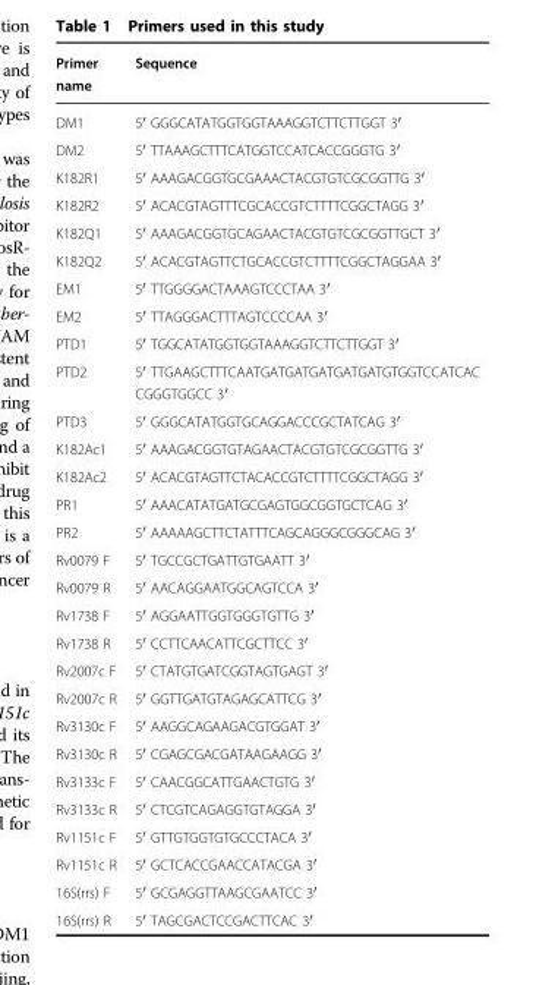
<table><thead><tr><td>Primer name</td><td>Sequence</td></tr></thead><tbody><tr><td>DM1</td><td>5′ GGGCATATGGTGGTAAAGGTCTTCTTGGT 3′</td></tr><tr><td>DM2</td><td>5′ TTAAAGCTTTCATGGTCCATCACCGGGTG 3′</td></tr><tr><td>K182R1</td><td>5′ AAAGACGGTGCGAAACTACGTGTCGCGGTTG 3′</td></tr><tr><td>K182R2</td><td>5′ ACACGTAGTTTCGCACCGTCTTTTCGGCTAGG 3′</td></tr><tr><td>K182Q1</td><td>5′ AAAGACGGTGCAGAACTACGTGTCGCGGTTGCT 3′</td></tr><tr><td>K182Q2</td><td>5′ ACACGTAGTTCTGCACCGTCTTTTCGGCTAGGAA 3′</td></tr><tr><td>EM1</td><td>5′ TTGGGGACTAAAGTCCCTAA 3′</td></tr><tr><td>EM2</td><td>5′ TTAGGGACTTTAGTCCCCAA 3′</td></tr><tr><td>PTD1</td><td>5′ TGGCATATGGTGGTAAAGGTCTTCTTGGT 3′</td></tr><tr><td>PTD2</td><td>5′ TTGAAGCTTTCAATGATGATGATGATGATGTGGTCCATCAC CGGGTGGCC 3′</td></tr><tr><td>PTD3</td><td>5′ GGGCATATGGTGCAGGACCCGCTATCAG 3′</td></tr><tr><td>K182Ac1</td><td>5′ AAAGACGGTGTAGAACTACGTGTCGCGGTTG 3′</td></tr><tr><td>K182Ac2</td><td>5′ ACACGTAGTTCTACACCGTCTTTTCGGCTAGG 3′</td></tr><tr><td>PR1</td><td>5′ AAACATATGATGCGAGTGGCGGTGCTCAG 3′</td></tr><tr><td>PR2</td><td>5′ AAAAAGCTTCTATTTCAGCAGGGCGGGCAG 3′</td></tr><tr><td>Rv0079 F</td><td>5′ TGCCGCTGATTGTGAATT 3′</td></tr><tr><td>Rv0079 R</td><td>5′ AACAGGAATGGCAGTCCA 3′</td></tr><tr><td>Rv1738 F</td><td>5′ AGGAATTGGTGGGTGTTG 3′</td></tr><tr><td>Rv1738 R</td><td>5′ CCTTCAACATTCGCTTCC 3′</td></tr><tr><td>Rv2007c F</td><td>5′ CTATGTGATCGGTAGTGAGT 3′</td></tr><tr><td>Rv2007c R</td><td>5′ GGTTGATGTAGAGCATTCG 3′</td></tr><tr><td>Rv3130c F</td><td>5′ AAGGCAGAAGACGTGGAT 3′</td></tr><tr><td>Rv3130c R</td><td>5′ CGAGCGACGATAAGAAGG 3′</td></tr><tr><td>Rv3133c F</td><td>5′ CAACGGCATTGAACTGTG 3′</td></tr><tr><td>Rv3133c R</td><td>5′ CTCGTCAGAGGTGTAGGA 3′</td></tr><tr><td>Rv1151c F</td><td>5′ GTTGTGGTGTGCCCTACA 3′</td></tr><tr><td>Rv1151c R</td><td>5′ GCTCACCGAACCATACGA 3′</td></tr><tr><td>16S(rrs) F</td><td>5′ GCGAGGTTAAGCGAATCC 3′</td></tr><tr><td>16S(rrs) R</td><td>5′ TAGCGACTCCGACTTCAC 3′</td></tr></tbody></table>